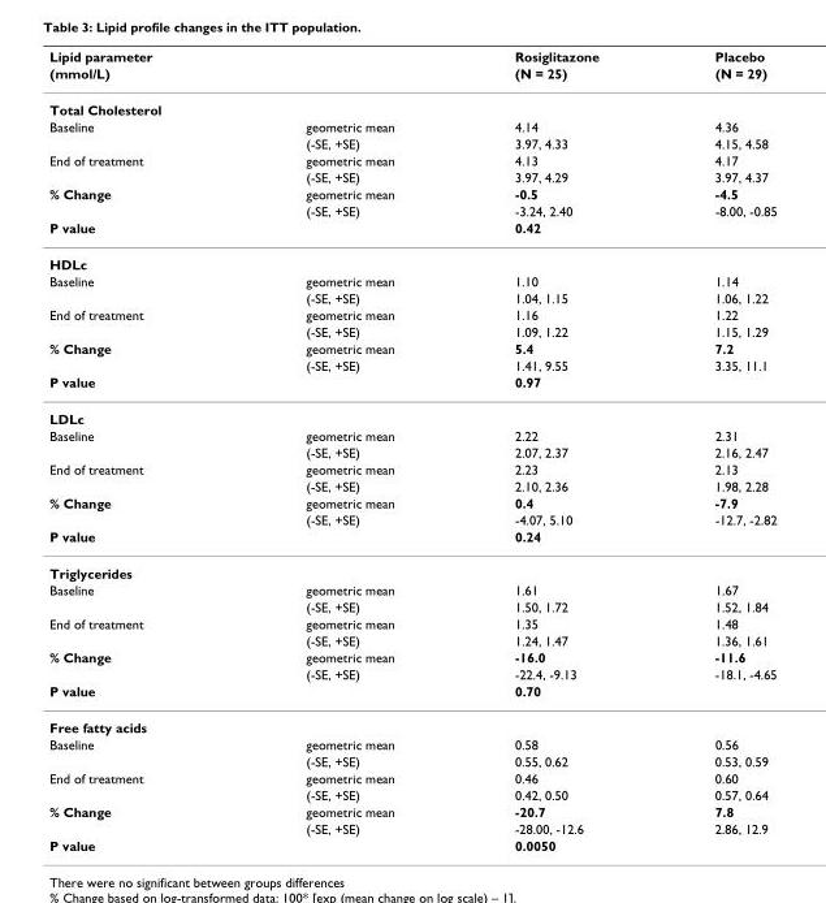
<table><thead><tr><td rowspan="2">Lipid parameter (mmol/L)</td><td rowspan="2"></td><td rowspan="2">Rosiglitazone (N = 25)</td><td rowspan="2">Placebo (N = 29)</td></tr><tr></tr></thead><tbody><tr><td colspan="4">Total Cholesterol</td></tr><tr><td rowspan="2">Baseline</td><td>geometric mean</td><td>4.14</td><td>4.36</td></tr><tr><td>(-SE, +SE)</td><td>3.97, 4.33</td><td>4.15, 4.58</td></tr><tr><td rowspan="2">End of treatment</td><td>geometric mean</td><td>4.13</td><td>4.17</td></tr><tr><td>(-SE, +SE)</td><td>3.97, 4.29</td><td>3.97, 4.37</td></tr><tr><td rowspan="2">% Change</td><td>geometric mean</td><td>-0.5</td><td>-4.5</td></tr><tr><td>(-SE, +SE)</td><td>-3.24, 2.40</td><td>-8.00, -0.85</td></tr><tr><td>P value</td><td></td><td>0.42</td><td></td></tr><tr><td colspan="4">HDLc</td></tr><tr><td rowspan="2">Baseline</td><td>geometric mean</td><td>1.10</td><td>1.14</td></tr><tr><td>(-SE, +SE)</td><td>1.04, 1.15</td><td>1.06, 1.22</td></tr><tr><td rowspan="2">End of treatment</td><td>geometric mean</td><td>1.16</td><td>1.22</td></tr><tr><td>(-SE, +SE)</td><td>1.09, 1.22</td><td>1.15, 1.29</td></tr><tr><td rowspan="2">% Change</td><td>geometric mean</td><td>5.4</td><td>7.2</td></tr><tr><td>(-SE, +SE)</td><td>1.41, 9.55</td><td>3.35, 11.1</td></tr><tr><td>P value</td><td></td><td>0.97</td><td></td></tr><tr><td colspan="4">LDLc</td></tr><tr><td rowspan="2">Baseline</td><td>geometric mean</td><td>2.22</td><td>2.31</td></tr><tr><td>(-SE, +SE)</td><td>2.07, 2.37</td><td>2.16, 2.47</td></tr><tr><td rowspan="2">End of treatment</td><td>geometric mean</td><td>2.23</td><td>2.13</td></tr><tr><td>(-SE, +SE)</td><td>2.10, 2.36</td><td>1.98, 2.28</td></tr><tr><td rowspan="2">% Change</td><td>geometric mean</td><td>0.4</td><td>-7.9</td></tr><tr><td>(-SE, +SE)</td><td>-4.07, 5.10</td><td>-12.7, -2.82</td></tr><tr><td>P value</td><td></td><td>0.24</td><td></td></tr><tr><td colspan="4">Triglycerides</td></tr><tr><td rowspan="2">Baseline</td><td>geometric mean</td><td>1.61</td><td>1.67</td></tr><tr><td>(-SE, +SE)</td><td>1.50, 1.72</td><td>1.52, 1.84</td></tr><tr><td rowspan="2">End of treatment</td><td>geometric mean</td><td>1.35</td><td>1.48</td></tr><tr><td>(-SE, +SE)</td><td>1.24, 1.47</td><td>1.36, 1.61</td></tr><tr><td rowspan="2">% Change</td><td>geometric mean</td><td>-16.0</td><td>-11.6</td></tr><tr><td>(-SE, +SE)</td><td>-22.4, -9.13</td><td>-18.1, -4.65</td></tr><tr><td>P value</td><td></td><td>0.70</td><td></td></tr><tr><td colspan="4">Free fatty acids</td></tr><tr><td rowspan="2">Baseline</td><td>geometric mean</td><td>0.58</td><td>0.56</td></tr><tr><td>(-SE, +SE)</td><td>0.55, 0.62</td><td>0.53, 0.59</td></tr><tr><td rowspan="2">End of treatment</td><td>geometric mean</td><td>0.46</td><td>0.60</td></tr><tr><td>(-SE, +SE)</td><td>0.42, 0.50</td><td>0.57, 0.64</td></tr><tr><td rowspan="2">% Change</td><td>geometric mean</td><td>-20.7</td><td>7.8</td></tr><tr><td>(-SE, +SE)</td><td>-28.00, -12.6</td><td>2.86, 12.9</td></tr><tr><td>P value</td><td></td><td>0.0050</td><td></td></tr></tbody></table>